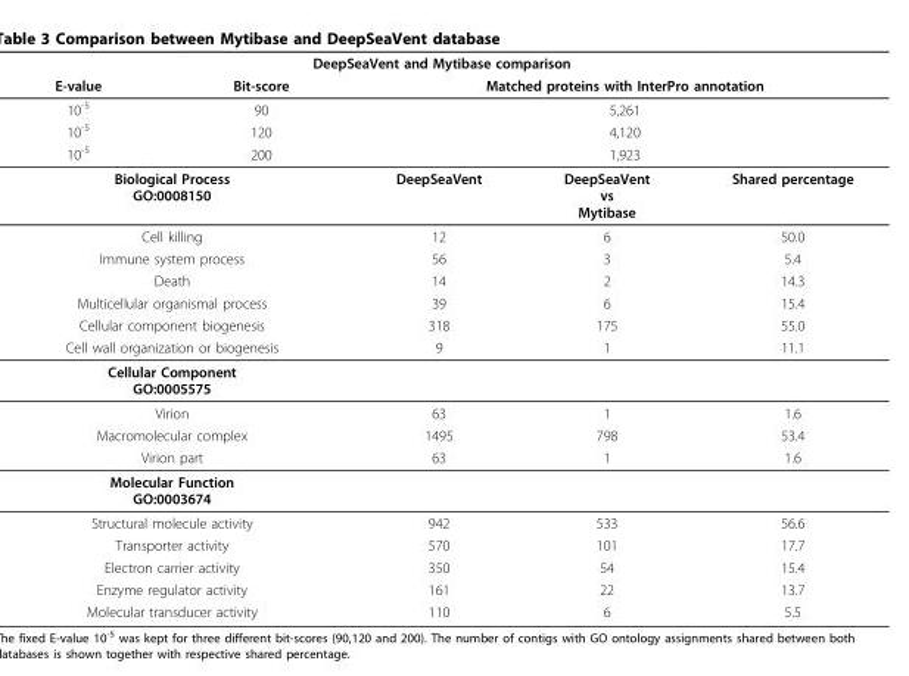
<table><thead><tr><td colspan="5">DeepSeaVent and Mytibase comparison</td></tr><tr><td>E-value</td><td>Bit-score</td><td colspan="3">Matched proteins with InterPro annotation</td></tr></thead><tbody><tr><td>10<sup>-5</sup></td><td>90</td><td colspan="3">5,261</td></tr><tr><td>10<sup>-5</sup></td><td>120</td><td colspan="3">4,120</td></tr><tr><td>10<sup>-5</sup></td><td>200</td><td colspan="3">1,923</td></tr><tr><td colspan="2">Biological Process GO:0008150</td><td>DeepSeaVent</td><td>DeepSeaVent vs Mytibase</td><td>Shared percentage</td></tr><tr><td colspan="2">Cell killing</td><td>12</td><td>6</td><td>50.0</td></tr><tr><td colspan="2">Immune system process</td><td>56</td><td>3</td><td>5.4</td></tr><tr><td colspan="2">Death</td><td>14</td><td>2</td><td>14.3</td></tr><tr><td colspan="2">Multicellular organismal process</td><td>39</td><td>6</td><td>15.4</td></tr><tr><td colspan="2">Cellular component biogenesis</td><td>318</td><td>175</td><td>55.0</td></tr><tr><td colspan="2">Cell wall organization or biogenesis</td><td>9</td><td>1</td><td>11.1</td></tr><tr><td colspan="5">Cellular Component GO:0005575</td></tr><tr><td colspan="2">Virion</td><td>63</td><td>1</td><td>1.6</td></tr><tr><td colspan="2">Macromolecular complex</td><td>1495</td><td>798</td><td>53.4</td></tr><tr><td colspan="2">Virion part</td><td>63</td><td>1</td><td>1.6</td></tr><tr><td colspan="5">Molecular Function GO:0003674</td></tr><tr><td colspan="2">Structural molecule activity</td><td>942</td><td>533</td><td>56.6</td></tr><tr><td colspan="2">Transporter activity</td><td>570</td><td>101</td><td>17.7</td></tr><tr><td colspan="2">Electron carrier activity</td><td>350</td><td>54</td><td>15.4</td></tr><tr><td colspan="2">Enzyme regulator activity</td><td>161</td><td>22</td><td>13.7</td></tr><tr><td colspan="2">Molecular transducer activity</td><td>110</td><td>6</td><td>5.5</td></tr></tbody></table>